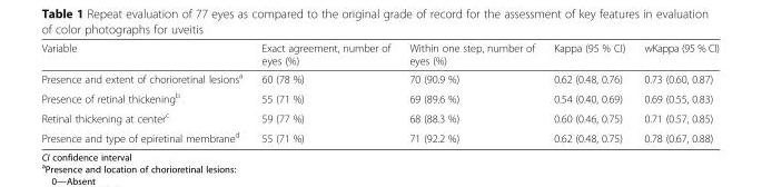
<table><thead><tr><td>Variable</td><td>Exact agreement, number of eyes (%)</td><td>Within one step, number of eyes (%)</td><td>Kappa (95 % CI)</td><td>wKappa (95 % CI)</td></tr></thead><tbody><tr><td>Presence and extent of chorioretinal lesions<sup>a</sup></td><td>60 (78 %)</td><td>70 (90.9 %)</td><td>0.62 (0.48, 0.76)</td><td>0.73 (0.60, 0.87)</td></tr><tr><td>Presence of retinal thickening<sup>b</sup></td><td>55 (71 %)</td><td>69 (89.6 %)</td><td>0.54 (0.40, 0.69)</td><td>0.69 (0.55, 0.83)</td></tr><tr><td>Retinal thickening at center<sup>c</sup></td><td>59 (77 %)</td><td>68 (88.3 %)</td><td>0.60 (0.46, 0.75)</td><td>0.71 (0.57, 0.85)</td></tr><tr><td>Presence and type of epiretinal membrane<sup>d</sup></td><td>55 (71 %)</td><td>71 (92.2 %)</td><td>0.62 (0.48, 0.75)</td><td>0.78 (0.67, 0.88)</td></tr></tbody></table>